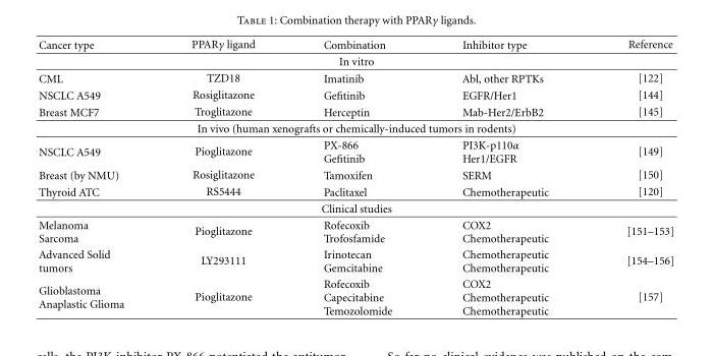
<table><thead><tr><td>Cancer type</td><td>PPARγ ligand</td><td>Combination</td><td>Inhibitor type</td><td>Reference</td></tr></thead><tbody><tr><td colspan="5">In vitro</td></tr><tr><td>CML</td><td>TZD18</td><td>Imatinib</td><td>Abl, other RPTKs</td><td>[122]</td></tr><tr><td>NSCLC A549</td><td>Rosiglitazone</td><td>Gefitinib</td><td>EGFR/Her1</td><td>[144]</td></tr><tr><td>Breast MCF7</td><td>Troglitazone</td><td>Herceptin</td><td>Mab-Her2/ErbB2</td><td>[145]</td></tr><tr><td colspan="5">In vivo (human xenografts or chemically-induced tumors in rodents)</td></tr><tr><td>NSCLC A549</td><td>Pioglitazone</td><td>PX-866 Gefitinib</td><td>PI3K-p110α Her1/EGFR</td><td>[149]</td></tr><tr><td>Breast (by NMU)</td><td>Rosiglitazone</td><td>Tamoxifen</td><td>SERM</td><td>[150]</td></tr><tr><td>Thyroid ATC</td><td>RS5444</td><td>Paclitaxel</td><td>Chemotherapeutic</td><td>[120]</td></tr><tr><td colspan="5">Clinical studies</td></tr><tr><td>Melanoma Sarcoma</td><td>Pioglitazone</td><td>Rofecoxib Trofosfamide</td><td>COX2 Chemotherapeutic</td><td>[151–153]</td></tr><tr><td>Advanced Solid tumors</td><td>LY293111</td><td>Irinotecan Gemcitabine</td><td>Chemotherapeutic Chemotherapeutic</td><td>[154–156]</td></tr><tr><td>Glioblastoma Anaplastic Glioma</td><td>Pioglitazone</td><td>Rofecoxib Capecitabine Temozolomide</td><td>COX2 Chemotherapeutic Chemotherapeutic</td><td>[157]</td></tr></tbody></table>